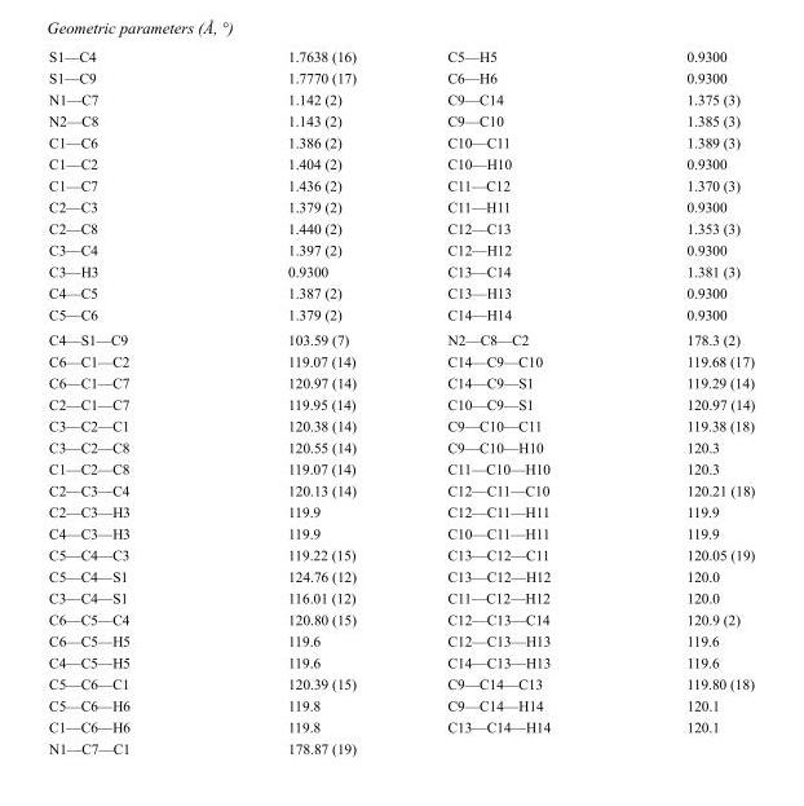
<table><tbody><tr><td>S1—C4</td><td>1.7638 (16)</td><td>C5—H5</td><td>0.9300</td></tr><tr><td>S1—C9</td><td>1.7770 (17)</td><td>C6—H6</td><td>0.9300</td></tr><tr><td>N1—C7</td><td>1.142 (2)</td><td>C9—C14</td><td>1.375 (3)</td></tr><tr><td>N2—C8</td><td>1.143 (2)</td><td>C9—C10</td><td>1.385 (3)</td></tr><tr><td>C1—C6</td><td>1.386 (2)</td><td>C10—C11</td><td>1.389 (3)</td></tr><tr><td>C1—C2</td><td>1.404 (2)</td><td>C10—H10</td><td>0.9300</td></tr><tr><td>C1—C7</td><td>1.436 (2)</td><td>C11—C12</td><td>1.370 (3)</td></tr><tr><td>C2—C3</td><td>1.379 (2)</td><td>C11—H11</td><td>0.9300</td></tr><tr><td>C2—C8</td><td>1.440 (2)</td><td>C12—C13</td><td>1.353 (3)</td></tr><tr><td>C3—C4</td><td>1.397 (2)</td><td>C12—H12</td><td>0.9300</td></tr><tr><td>C3—H3</td><td>0.9300</td><td>C13—C14</td><td>1.381 (3)</td></tr><tr><td>C4—C5</td><td>1.387 (2)</td><td>C13—H13</td><td>0.9300</td></tr><tr><td>C5—C6</td><td>1.379 (2)</td><td>C14—H14</td><td>0.9300</td></tr><tr><td>C4—S1—C9</td><td>103.59 (7)</td><td>N2—C8—C2</td><td>178.3 (2)</td></tr><tr><td>C6—C1—C2</td><td>119.07 (14)</td><td>C14—C9—C10</td><td>119.68 (17)</td></tr><tr><td>C6—C1—C7</td><td>120.97 (14)</td><td>C14—C9—S1</td><td>119.29 (14)</td></tr><tr><td>C2—C1—C7</td><td>119.95 (14)</td><td>C10—C9—S1</td><td>120.97 (14)</td></tr><tr><td>C3—C2—C1</td><td>120.38 (14)</td><td>C9—C10—C11</td><td>119.38 (18)</td></tr><tr><td>C3—C2—C8</td><td>120.55 (14)</td><td>C9—C10—H10</td><td>120.3</td></tr><tr><td>C1—C2—C8</td><td>119.07 (14)</td><td>C11—C10—H10</td><td>120.3</td></tr><tr><td>C2—C3—C4</td><td>120.13 (14)</td><td>C12—C11—C10</td><td>120.21 (18)</td></tr><tr><td>C2—C3—H3</td><td>119.9</td><td>C12—C11—H11</td><td>119.9</td></tr><tr><td>C4—C3—H3</td><td>119.9</td><td>C10—C11—H11</td><td>119.9</td></tr><tr><td>C5—C4—C3</td><td>119.22 (15)</td><td>C13—C12—C11</td><td>120.05 (19)</td></tr><tr><td>C5—C4—S1</td><td>124.76 (12)</td><td>C13—C12—H12</td><td>120.0</td></tr><tr><td>C3—C4—S1</td><td>116.01 (12)</td><td>C11—C12—H12</td><td>120.0</td></tr><tr><td>C6—C5—C4</td><td>120.80 (15)</td><td>C12—C13—C14</td><td>120.9 (2)</td></tr><tr><td>C6—C5—H5</td><td>119.6</td><td>C12—C13—H13</td><td>119.6</td></tr><tr><td>C4—C5—H5</td><td>119.6</td><td>C14—C13—H13</td><td>119.6</td></tr><tr><td>C5—C6—C1</td><td>120.39 (15)</td><td>C9—C14—C13</td><td>119.80 (18)</td></tr><tr><td>C5—C6—H6</td><td>119.8</td><td>C9—C14—H14</td><td>120.1</td></tr><tr><td>C1—C6—H6</td><td>119.8</td><td>C13—C14—H14</td><td>120.1</td></tr><tr><td>N1—C7—C1</td><td>178.87 (19)</td><td></td><td></td></tr></tbody></table>